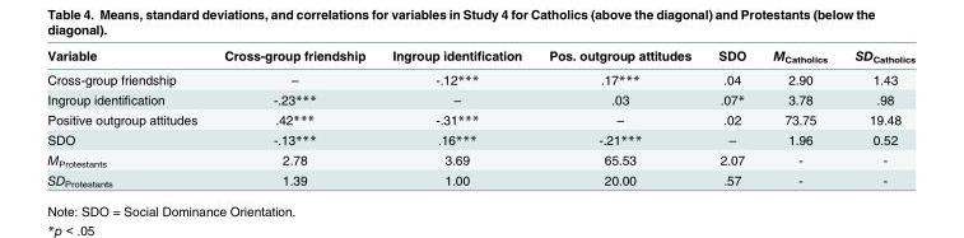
<table><thead><tr><td>Variable</td><td>Cross-group friendship</td><td>Ingroup identification</td><td>Pos. outgroup attitudes</td><td>SDO</td><td>M<sub>Catholics</sub></td><td>SD<sub>Catholics</sub></td></tr></thead><tbody><tr><td>Cross-group friendship</td><td>–</td><td>-.12***</td><td>.17***</td><td>.04</td><td>2.90</td><td>1.43</td></tr><tr><td>Ingroup identification</td><td>-.23***</td><td>–</td><td>.03</td><td>.07*</td><td>3.78</td><td>.98</td></tr><tr><td>Positive outgroup attitudes</td><td>.42***</td><td>-.31***</td><td>–</td><td>.02</td><td>73.75</td><td>19.48</td></tr><tr><td>SDO</td><td>-.13***</td><td>.16***</td><td>-.21***</td><td>–</td><td>1.96</td><td>0.52</td></tr><tr><td>M<sub>Protestants</sub></td><td>2.78</td><td>3.69</td><td>65.53</td><td>2.07</td><td>-</td><td>-</td></tr><tr><td>SD<sub>Protestants</sub></td><td>1.39</td><td>1.00</td><td>20.00</td><td>.57</td><td>-</td><td>-</td></tr></tbody></table>